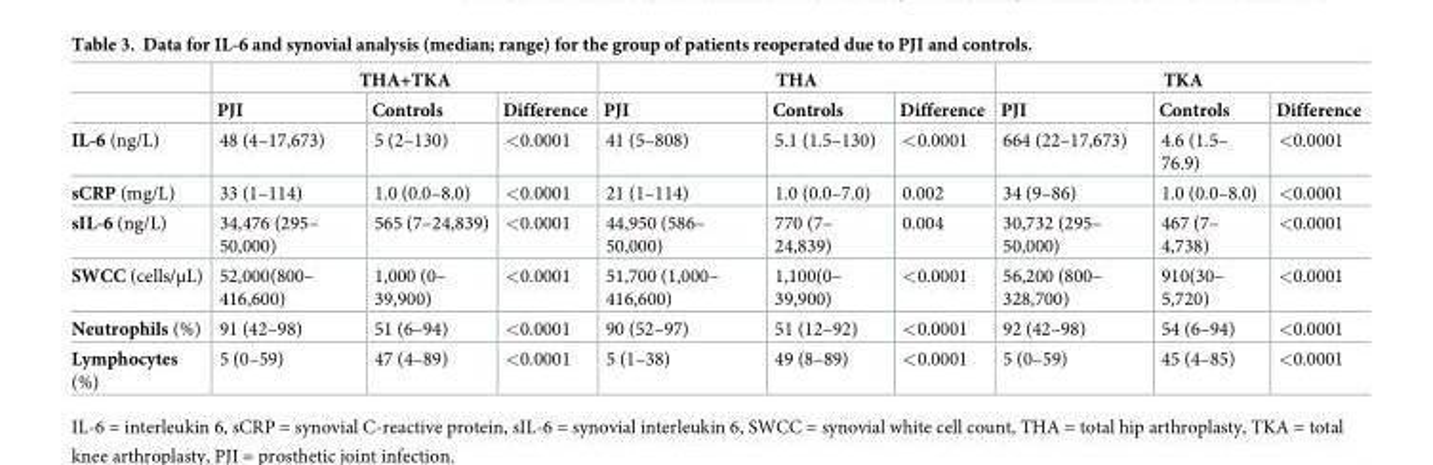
<table><thead><tr><td rowspan="2"></td><td colspan="3">THA+TKA</td><td colspan="3">THA</td><td colspan="3">TKA</td></tr><tr><td>PJI</td><td>Controls</td><td>Difference</td><td>PJI</td><td>Controls</td><td>Difference</td><td>PJI</td><td>Controls</td><td>Difference</td></tr></thead><tbody><tr><td>IL-6 (ng/L)</td><td>48 (4–17,673)</td><td>5 (2–130)</td><td>&lt;0.0001</td><td>41 (5–808)</td><td>5.1 (1.5–130)</td><td>&lt;0.0001</td><td>664 (22–17,673)</td><td>4.6 (1.5– 76.9)</td><td>&lt;0.0001</td></tr><tr><td>sCRP (mg/L)</td><td>33 (1–114)</td><td>1.0 (0.0–8.0)</td><td>&lt;0.0001</td><td>21 (1–114)</td><td>1.0 (0.0–7.0)</td><td>0.002</td><td>34 (9–86)</td><td>1.0 (0.0–8.0)</td><td>&lt;0.0001</td></tr><tr><td>sIL-6 (ng/L)</td><td>34,476 (295– 50,000)</td><td>565 (7–24,839)</td><td>&lt;0.0001</td><td>44,950 (586– 50,000)</td><td>770 (7– 24,839)</td><td>0.004</td><td>30,732 (295– 50,000)</td><td>467 (7– 4,738)</td><td>&lt;0.0001</td></tr><tr><td>SWCC (cells/μL)</td><td>52,000(800– 416,600)</td><td>1,000 (0– 39,900)</td><td>&lt;0.0001</td><td>51,700 (1,000– 416,600)</td><td>1,100(0– 39,900)</td><td>&lt;0.0001</td><td>56,200 (800– 328,700)</td><td>910(30– 5,720)</td><td>&lt;0.0001</td></tr><tr><td>Neutrophils (%)</td><td>91 (42–98)</td><td>51 (6–94)</td><td>&lt;0.0001</td><td>90 (52–97)</td><td>51 (12–92)</td><td>&lt;0.0001</td><td>92 (42–98)</td><td>54 (6–94)</td><td>&lt;0.0001</td></tr><tr><td>Lymphocytes (%)</td><td>5 (0–59)</td><td>47 (4–89)</td><td>&lt;0.0001</td><td>5 (1–38)</td><td>49 (8–89)</td><td>&lt;0.0001</td><td>5 (0–59)</td><td>45 (4–85)</td><td>&lt;0.0001</td></tr></tbody></table>